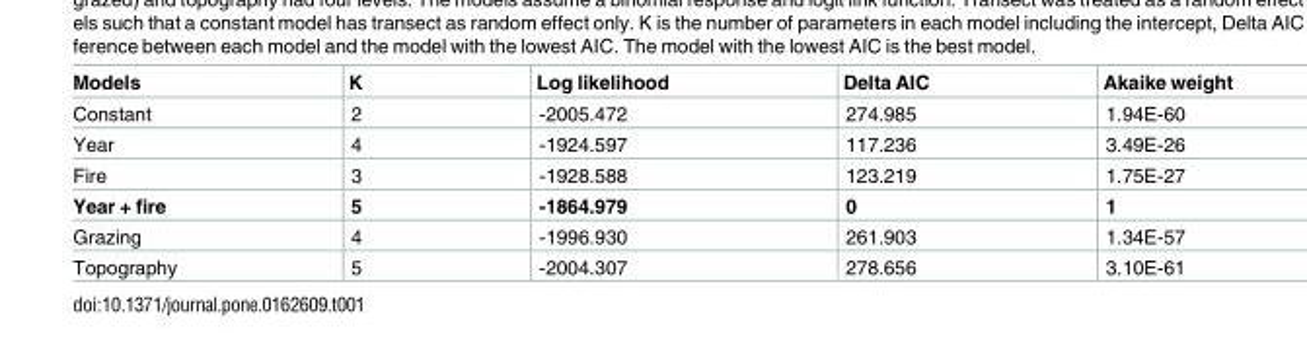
<table><thead><tr><td>Models</td><td>K</td><td>Log likelihood</td><td>Delta AIC</td><td>Akaike weight</td></tr></thead><tbody><tr><td>Constant</td><td>2</td><td>-2005.472</td><td>274.985</td><td>1.94E-60</td></tr><tr><td>Year</td><td>4</td><td>-1924.597</td><td>117.236</td><td>3.49E-26</td></tr><tr><td>Fire</td><td>3</td><td>-1928.588</td><td>123.219</td><td>1.75E-27</td></tr><tr><td>Year + fire</td><td>5</td><td>-1864.979</td><td>0</td><td>1</td></tr><tr><td>Grazing</td><td>4</td><td>-1996.930</td><td>261.903</td><td>1.34E-57</td></tr><tr><td>Topography</td><td>5</td><td>-2004.307</td><td>278.656</td><td>3.10E-61</td></tr></tbody></table>